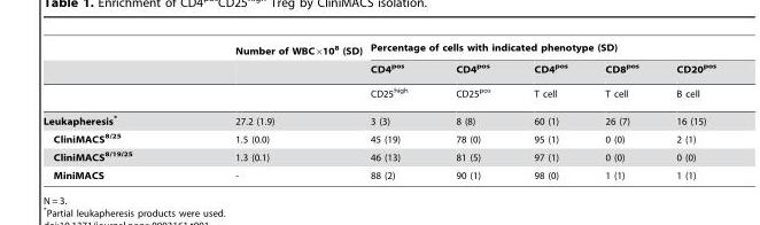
<table><thead><tr><td rowspan="2"></td><td rowspan="2">Number of WBC×10<sup>8</sup> (SD)</td><td colspan="5">Percentage of cells with indicated phenotype (SD)</td></tr><tr><td>CD4<sup>pos</sup></td><td>CD4<sup>pos</sup></td><td>CD4<sup>pos</sup></td><td>CD8<sup>pos</sup></td><td>CD20<sup>pos</sup></td></tr></thead><tbody><tr><td></td><td></td><td>CD25<sup>high</sup></td><td>CD25<sup>pos</sup></td><td>T cell</td><td>T cell</td><td>B cell</td></tr><tr><td>Leukapheresis*</td><td>27.2 (1.9)</td><td>3 (3)</td><td>8 (8)</td><td>60 (1)</td><td>26 (7)</td><td>16 (15)</td></tr><tr><td>CliniMACS<sup>8/25</sup></td><td>1.5 (0.0)</td><td>45 (19)</td><td>78 (0)</td><td>95 (1)</td><td>0 (0)</td><td>2 (1)</td></tr><tr><td>CliniMACS<sup>8/19/25</sup></td><td>1.3 (0.1)</td><td>46 (13)</td><td>81 (5)</td><td>97 (1)</td><td>0 (0)</td><td>0 (0)</td></tr><tr><td>MiniMACS</td><td>-</td><td>88 (2)</td><td>90 (1)</td><td>98 (0)</td><td>1 (1)</td><td>1 (1)</td></tr></tbody></table>